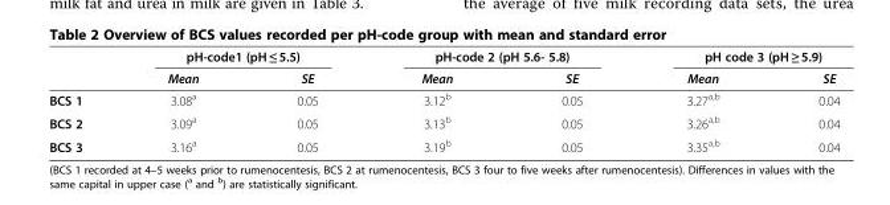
<table><thead><tr><td rowspan="2"></td><td colspan="2">pH-code1 (pH ≤ 5.5)</td><td colspan="2">pH-code 2 (pH 5.6- 5.8)</td><td colspan="2">pH code 3 (pH ≥ 5.9)</td></tr><tr><td>Mean</td><td>SE</td><td>Mean</td><td>SE</td><td>Mean</td><td>SE</td></tr></thead><tbody><tr><td>BCS 1</td><td>3.08<sup>a</sup></td><td>0.05</td><td>3.12<sup>b</sup></td><td>0.05</td><td>3.27<sup>a,b</sup></td><td>0.04</td></tr><tr><td>BCS 2</td><td>3.09<sup>a</sup></td><td>0.05</td><td>3.13<sup>b</sup></td><td>0.05</td><td>3.26<sup>a,b</sup></td><td>0.04</td></tr><tr><td>BCS 3</td><td>3.16<sup>a</sup></td><td>0.05</td><td>3.19<sup>b</sup></td><td>0.05</td><td>3.35<sup>a,b</sup></td><td>0.04</td></tr></tbody></table>